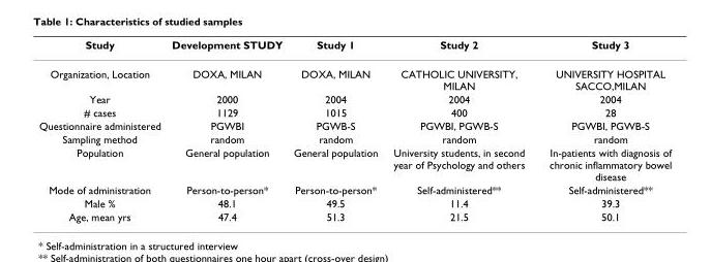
<table><thead><tr><td>Study</td><td>Development STUDY</td><td>Study 1</td><td>Study 2</td><td>Study 3</td></tr></thead><tbody><tr><td>Organization, Location</td><td>DOXA, MILAN</td><td>DOXA, MILAN</td><td>CATHOLIC UNIVERSITY, MILAN</td><td>UNIVERSITY HOSPITAL SACCO,MILAN</td></tr><tr><td>Year</td><td>2000</td><td>2004</td><td>2004</td><td>2004</td></tr><tr><td># cases</td><td>1129</td><td>1015</td><td>400</td><td>28</td></tr><tr><td>Questionnaire administered</td><td>PGWBI</td><td>PGWB-S</td><td>PGWBI, PGWB-S</td><td>PGWBI, PGWB-S</td></tr><tr><td>Sampling method</td><td>random</td><td>random</td><td>random</td><td>random</td></tr><tr><td>Population</td><td>General population</td><td>General population</td><td>University students, in second year of Psychology and others</td><td>In-patients with diagnosis of chronic inflammatory bowel disease</td></tr><tr><td>Mode of administration</td><td>Person-to-person*</td><td>Person-to-person*</td><td>Self-administered**</td><td>Self-administered**</td></tr><tr><td>Male %</td><td>48.1</td><td>49.5</td><td>11.4</td><td>39.3</td></tr><tr><td>Age, mean yrs</td><td>47.4</td><td>51.3</td><td>21.5</td><td>50.1</td></tr></tbody></table>